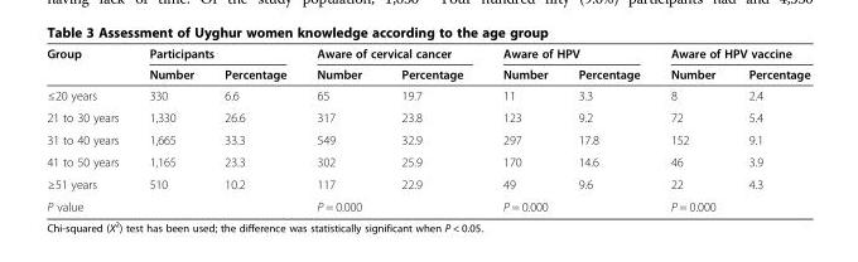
<table><thead><tr><td rowspan="2">Group</td><td colspan="2">Participants</td><td colspan="2">Aware of cervical cancer</td><td colspan="2">Aware of HPV</td><td colspan="2">Aware of HPV vaccine</td></tr><tr><td>Number</td><td>Percentage</td><td>Number</td><td>Percentage</td><td>Number</td><td>Percentage</td><td>Number</td><td>Percentage</td></tr></thead><tbody><tr><td>≤20 years</td><td>330</td><td>6.6</td><td>65</td><td>19.7</td><td>11</td><td>3.3</td><td>8</td><td>2.4</td></tr><tr><td>21 to 30 years</td><td>1,330</td><td>26.6</td><td>317</td><td>23.8</td><td>123</td><td>9.2</td><td>72</td><td>5.4</td></tr><tr><td>31 to 40 years</td><td>1,665</td><td>33.3</td><td>549</td><td>32.9</td><td>297</td><td>17.8</td><td>152</td><td>9.1</td></tr><tr><td>41 to 50 years</td><td>1,165</td><td>23.3</td><td>302</td><td>25.9</td><td>170</td><td>14.6</td><td>46</td><td>3.9</td></tr><tr><td>≥51 years</td><td>510</td><td>10.2</td><td>117</td><td>22.9</td><td>49</td><td>9.6</td><td>22</td><td>4.3</td></tr><tr><td>P value</td><td colspan="2"></td><td colspan="2">P = 0.000</td><td colspan="2">P = 0.000</td><td colspan="2">P = 0.000</td></tr></tbody></table>